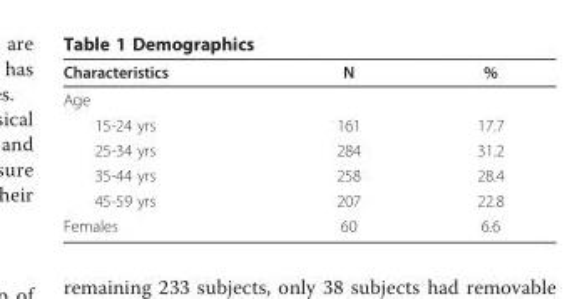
<table><thead><tr><td>Characteristics</td><td>N</td><td>%</td></tr></thead><tbody><tr><td colspan="3">Age</td></tr><tr><td>15-24 yrs</td><td>161</td><td>17.7</td></tr><tr><td>25-34 yrs</td><td>284</td><td>31.2</td></tr><tr><td>35-44 yrs</td><td>258</td><td>28.4</td></tr><tr><td>45-59 yrs</td><td>207</td><td>22.8</td></tr><tr><td>Females</td><td>60</td><td>6.6</td></tr></tbody></table>